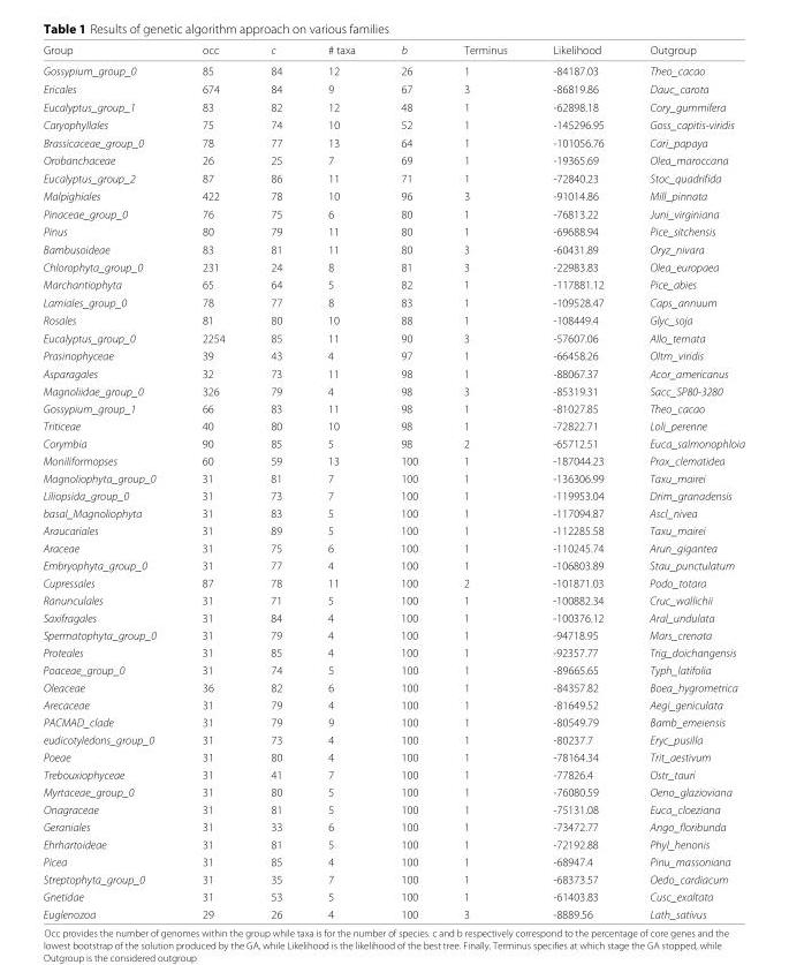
<table><thead><tr><td>Group</td><td>occ</td><td>c</td><td># taxa</td><td>b</td><td>Terminus</td><td>Likelihood</td><td>Outgroup</td></tr></thead><tbody><tr><td>Gossypium_group_0</td><td>85</td><td>84</td><td>12</td><td>26</td><td>1</td><td>-84187.03</td><td>Theo_cacao</td></tr><tr><td>Ericales</td><td>674</td><td>84</td><td>9</td><td>67</td><td>3</td><td>-86819.86</td><td>Dauc_carota</td></tr><tr><td>Eucalyptus_group_1</td><td>83</td><td>82</td><td>12</td><td>48</td><td>1</td><td>-62898.18</td><td>Cory_gummifera</td></tr><tr><td>Caryophyllales</td><td>75</td><td>74</td><td>10</td><td>52</td><td>1</td><td>-145296.95</td><td>Goss_capitis-viridis</td></tr><tr><td>Brassicaceae_group_0</td><td>78</td><td>77</td><td>13</td><td>64</td><td>1</td><td>-101056.76</td><td>Cari_papaya</td></tr><tr><td>Orobanchaceae</td><td>26</td><td>25</td><td>7</td><td>69</td><td>1</td><td>-19365.69</td><td>Olea_maroccana</td></tr><tr><td>Eucalyptus_group_2</td><td>87</td><td>86</td><td>11</td><td>71</td><td>1</td><td>-72840.23</td><td>Stoc_quadrifida</td></tr><tr><td>Malpighiales</td><td>422</td><td>78</td><td>10</td><td>96</td><td>3</td><td>-91014.86</td><td>Mill_pinnata</td></tr><tr><td>Pinaceae_group_0</td><td>76</td><td>75</td><td>6</td><td>80</td><td>1</td><td>-76813.22</td><td>Juni_virginiana</td></tr><tr><td>Pinus</td><td>80</td><td>79</td><td>11</td><td>80</td><td>1</td><td>-69688.94</td><td>Pice_sitchensis</td></tr><tr><td>Bambusoideae</td><td>83</td><td>81</td><td>11</td><td>80</td><td>3</td><td>-60431.89</td><td>Oryz_nivara</td></tr><tr><td>Chlorophyta_group_0</td><td>231</td><td>24</td><td>8</td><td>81</td><td>3</td><td>-22983.83</td><td>Olea_europaea</td></tr><tr><td>Marchantiophyta</td><td>65</td><td>64</td><td>5</td><td>82</td><td>1</td><td>-117881.12</td><td>Pice_abies</td></tr><tr><td>Lamiales_group_0</td><td>78</td><td>77</td><td>8</td><td>83</td><td>1</td><td>-109528.47</td><td>Caps_annuum</td></tr><tr><td>Rosales</td><td>81</td><td>80</td><td>10</td><td>88</td><td>1</td><td>-108449.4</td><td>Glyc_soja</td></tr><tr><td>Eucalyptus_group_0</td><td>2254</td><td>85</td><td>11</td><td>90</td><td>3</td><td>-57607.06</td><td>Allo_ternata</td></tr><tr><td>Prasinophyceae</td><td>39</td><td>43</td><td>4</td><td>97</td><td>1</td><td>-66458.26</td><td>Oltm_viridis</td></tr><tr><td>Asparagales</td><td>32</td><td>73</td><td>11</td><td>98</td><td>1</td><td>-88067.37</td><td>Acor_americanus</td></tr><tr><td>Magnoliidae_group_0</td><td>326</td><td>79</td><td>4</td><td>98</td><td>3</td><td>-85319.31</td><td>Sacc_SP80-3280</td></tr><tr><td>Gossypium_group_1</td><td>66</td><td>83</td><td>11</td><td>98</td><td>1</td><td>-81027.85</td><td>Theo_cacao</td></tr><tr><td>Triticeae</td><td>40</td><td>80</td><td>10</td><td>98</td><td>1</td><td>-72822.71</td><td>Loli_perenne</td></tr><tr><td>Corymbia</td><td>90</td><td>85</td><td>5</td><td>98</td><td>2</td><td>-65712.51</td><td>Euca_salmonophloia</td></tr><tr><td>Moniliformopses</td><td>60</td><td>59</td><td>13</td><td>100</td><td>1</td><td>-187044.23</td><td>Prax_clematidea</td></tr><tr><td>Magnoliophyta_group_0</td><td>31</td><td>81</td><td>7</td><td>100</td><td>1</td><td>-136306.99</td><td>Taxu_mairei</td></tr><tr><td>Liliopsida_group_0</td><td>31</td><td>73</td><td>7</td><td>100</td><td>1</td><td>-119953.04</td><td>Drim_granadensis</td></tr><tr><td>basal_Magnoliophyta</td><td>31</td><td>83</td><td>5</td><td>100</td><td>1</td><td>-117094.87</td><td>Ascl_nivea</td></tr><tr><td>Araucariales</td><td>31</td><td>89</td><td>5</td><td>100</td><td>1</td><td>-112285.58</td><td>Taxu_mairei</td></tr><tr><td>Araceae</td><td>31</td><td>75</td><td>6</td><td>100</td><td>1</td><td>-110245.74</td><td>Arun_gigantea</td></tr><tr><td>Embryophyta_group_0</td><td>31</td><td>77</td><td>4</td><td>100</td><td>1</td><td>-106803.89</td><td>Stau_punctulatum</td></tr><tr><td>Cupressales</td><td>87</td><td>78</td><td>11</td><td>100</td><td>2</td><td>-101871.03</td><td>Podo_totara</td></tr><tr><td>Ranunculales</td><td>31</td><td>71</td><td>5</td><td>100</td><td>1</td><td>-100882.34</td><td>Cruc_wallichii</td></tr><tr><td>Saxifragales</td><td>31</td><td>84</td><td>4</td><td>100</td><td>1</td><td>-100376.12</td><td>Aral_undulata</td></tr><tr><td>Spermatophyta_group_0</td><td>31</td><td>79</td><td>4</td><td>100</td><td>1</td><td>-94718.95</td><td>Mars_crenata</td></tr><tr><td>Proteales</td><td>31</td><td>85</td><td>4</td><td>100</td><td>1</td><td>-92357.77</td><td>Trig_doichangensis</td></tr><tr><td>Poaceae_group_0</td><td>31</td><td>74</td><td>5</td><td>100</td><td>1</td><td>-89665.65</td><td>Typh_latifolia</td></tr><tr><td>Oleaceae</td><td>36</td><td>82</td><td>6</td><td>100</td><td>1</td><td>-84357.82</td><td>Boea_hygrometrica</td></tr><tr><td>Arecaceae</td><td>31</td><td>79</td><td>4</td><td>100</td><td>1</td><td>-81649.52</td><td>Aegi_geniculata</td></tr><tr><td>PACMAD_clade</td><td>31</td><td>79</td><td>9</td><td>100</td><td>1</td><td>-80549.79</td><td>Bamb_emeiensis</td></tr><tr><td>eudicotyledons_group_0</td><td>31</td><td>73</td><td>4</td><td>100</td><td>1</td><td>-80237.7</td><td>Eryc_pusilla</td></tr><tr><td>Poeae</td><td>31</td><td>80</td><td>4</td><td>100</td><td>1</td><td>-78164.34</td><td>Trit_aestivum</td></tr><tr><td>Trebouxiophyceae</td><td>31</td><td>41</td><td>7</td><td>100</td><td>1</td><td>-77826.4</td><td>Ostr_tauri</td></tr><tr><td>Myrtaceae_group_0</td><td>31</td><td>80</td><td>5</td><td>100</td><td>1</td><td>-76080.59</td><td>Oeno_glazioviana</td></tr><tr><td>Onagraceae</td><td>31</td><td>81</td><td>5</td><td>100</td><td>1</td><td>-75131.08</td><td>Euca_cloeziana</td></tr><tr><td>Geraniales</td><td>31</td><td>33</td><td>6</td><td>100</td><td>1</td><td>-73472.77</td><td>Ango_floribunda</td></tr><tr><td>Ehrhartoideae</td><td>31</td><td>81</td><td>5</td><td>100</td><td>1</td><td>-72192.88</td><td>Phyl_henonis</td></tr><tr><td>Picea</td><td>31</td><td>85</td><td>4</td><td>100</td><td>1</td><td>-68947.4</td><td>Pinu_massoniana</td></tr><tr><td>Streptophyta_group_0</td><td>31</td><td>35</td><td>7</td><td>100</td><td>1</td><td>-68373.57</td><td>Oedo_cardiacum</td></tr><tr><td>Gnetidae</td><td>31</td><td>53</td><td>5</td><td>100</td><td>1</td><td>-61403.83</td><td>Cusc_exaltata</td></tr><tr><td>Euglenozoa</td><td>29</td><td>26</td><td>4</td><td>100</td><td>3</td><td>-8889.56</td><td>Lath_sativus</td></tr></tbody></table>